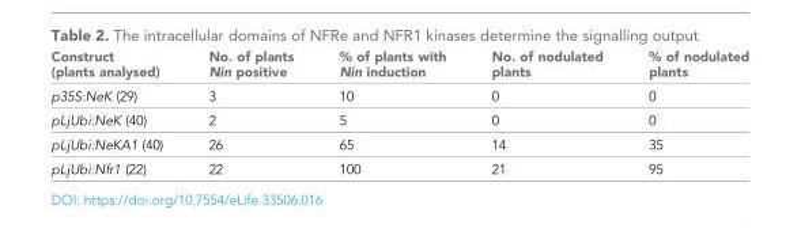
<table><thead><tr><td>Construct (plants analysed)</td><td>No. of plants Nin positive</td><td>% of plants with Nin induction</td><td>No. of nodulated plants</td><td>% of nodulated plants</td></tr></thead><tbody><tr><td>p35S:NeK (29)</td><td>3</td><td>10</td><td>0</td><td>0</td></tr><tr><td>pLjUbi:NeK (40)</td><td>2</td><td>5</td><td>0</td><td>0</td></tr><tr><td>pLjUbi:NeKA1 (40)</td><td>26</td><td>65</td><td>14</td><td>35</td></tr><tr><td>pLjUbi:Nfr1 (22)</td><td>22</td><td>100</td><td>21</td><td>95</td></tr></tbody></table>